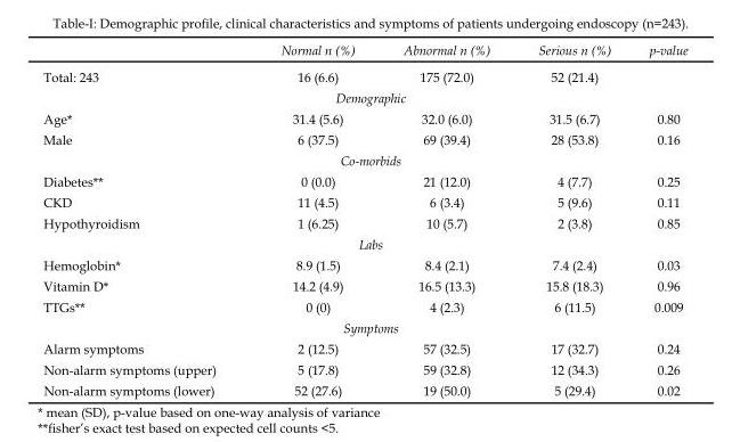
<table><thead><tr><td></td><td>Normal n (%)</td><td>Abnormal n (%)</td><td>Serious n (%)</td><td>p-value</td></tr></thead><tbody><tr><td>Total: 243</td><td>16 (6.6)</td><td>175 (72.0)</td><td>52 (21.4)</td><td></td></tr><tr><td colspan="5">Demographic</td></tr><tr><td>Age*</td><td>31.4 (5.6)</td><td>32.0 (6.0)</td><td>31.5 (6.7)</td><td>0.80</td></tr><tr><td>Male</td><td>6 (37.5)</td><td>69 (39.4)</td><td>28 (53.8)</td><td>0.16</td></tr><tr><td colspan="5">Co-morbids</td></tr><tr><td>Diabetes**</td><td>0 (0.0)</td><td>21 (12.0)</td><td>4 (7.7)</td><td>0.25</td></tr><tr><td>CKD</td><td>11 (4.5)</td><td>6 (3.4)</td><td>5 (9.6)</td><td>0.11</td></tr><tr><td>Hypothyroidism</td><td>1 (6.25)</td><td>10 (5.7)</td><td>2 (3.8)</td><td>0.85</td></tr><tr><td colspan="5">Labs</td></tr><tr><td>Hemoglobin*</td><td>8.9 (1.5)</td><td>8.4 (2.1)</td><td>7.4 (2.4)</td><td>0.03</td></tr><tr><td>Vitamin D*</td><td>14.2 (4.9)</td><td>16.5 (13.3)</td><td>15.8 (18.3)</td><td>0.96</td></tr><tr><td>TTGs**</td><td>0 (0)</td><td>4 (2.3)</td><td>6 (11.5)</td><td>0.009</td></tr><tr><td colspan="5">Symptoms</td></tr><tr><td>Alarm symptoms</td><td>2 (12.5)</td><td>57 (32.5)</td><td>17 (32.7)</td><td>0.24</td></tr><tr><td>Non-alarm symptoms (upper)</td><td>5 (17.8)</td><td>59 (32.8)</td><td>12 (34.3)</td><td>0.26</td></tr><tr><td>Non-alarm symptoms (lower)</td><td>52 (27.6)</td><td>19 (50.0)</td><td>5 (29.4)</td><td>0.02</td></tr></tbody></table>